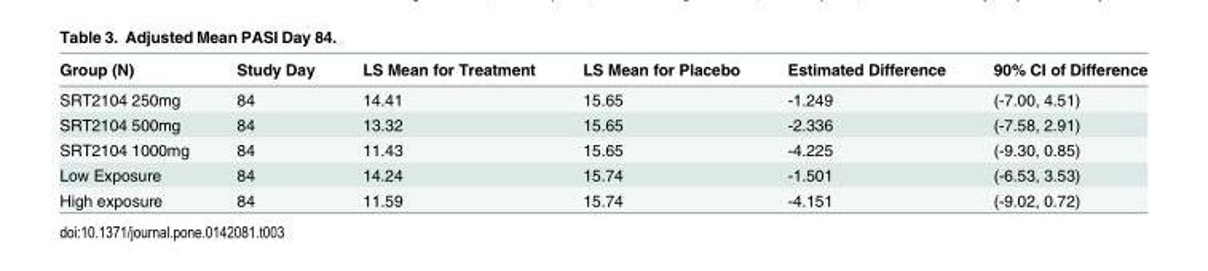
<table><thead><tr><td>Group (N)</td><td>Study Day</td><td>LS Mean for Treatment</td><td>LS Mean for Placebo</td><td>Estimated Difference</td><td>90% CI of Difference</td></tr></thead><tbody><tr><td>SRT2104 250mg</td><td>84</td><td>14.41</td><td>15.65</td><td>-1.249</td><td>(-7.00, 4.51)</td></tr><tr><td>SRT2104 500mg</td><td>84</td><td>13.32</td><td>15.65</td><td>-2.336</td><td>(-7.58, 2.91)</td></tr><tr><td>SRT2104 1000mg</td><td>84</td><td>11.43</td><td>15.65</td><td>-4.225</td><td>(-9.30, 0.85)</td></tr><tr><td>Low Exposure</td><td>84</td><td>14.24</td><td>15.74</td><td>-1.501</td><td>(-6.53, 3.53)</td></tr><tr><td>High exposure</td><td>84</td><td>11.59</td><td>15.74</td><td>-4.151</td><td>(-9.02, 0.72)</td></tr></tbody></table>